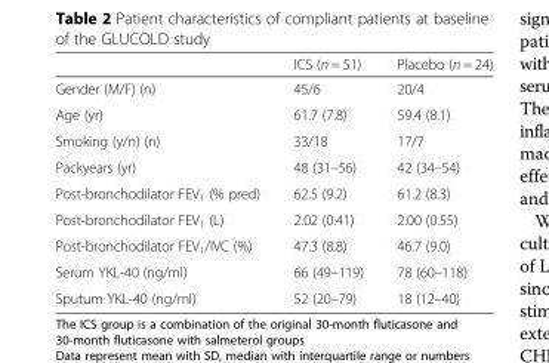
<table><thead><tr><td></td><td>ICS (n = 51)</td><td>Placebo (n = 24)</td></tr></thead><tbody><tr><td>Gender (M/F) (n)</td><td>45/6</td><td>20/4</td></tr><tr><td>Age (yr)</td><td>61.7 (7.8)</td><td>59.4 (8.1)</td></tr><tr><td>Smoking (y/n) (n)</td><td>33/18</td><td>17/7</td></tr><tr><td>Packyears (yr)</td><td>48 (31–56)</td><td>42 (34–54)</td></tr><tr><td>Post-bronchodilator FEV<sub>1</sub> (% pred)</td><td>62.5 (9.2)</td><td>61.2 (8.3)</td></tr><tr><td>Post-bronchodilator FEV<sub>1</sub> (L)</td><td>2.02 (0.41)</td><td>2.00 (0.55)</td></tr><tr><td>Post-bronchodilator FEV<sub>1</sub>/IVC (%)</td><td>47.3 (8.8)</td><td>46.7 (9.0)</td></tr><tr><td>Serum YKL-40 (ng/ml)</td><td>66 (49–119)</td><td>78 (60–118)</td></tr><tr><td>Sputum YKL-40 (ng/ml)</td><td>52 (20–79)</td><td>18 (12–40)</td></tr></tbody></table>